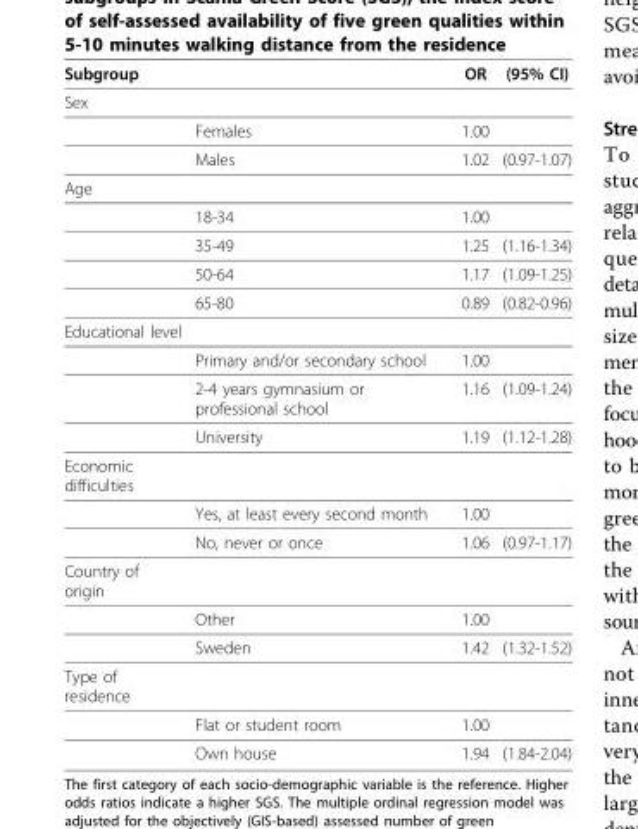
<table><thead><tr><td>Subgroup</td><td></td><td>OR</td><td>(95% CI)</td></tr></thead><tbody><tr><td colspan="4">Sex</td></tr><tr><td></td><td>Females</td><td>1.00</td><td></td></tr><tr><td></td><td>Males</td><td>1.02</td><td>(0.97-1.07)</td></tr><tr><td colspan="4">Age</td></tr><tr><td></td><td>18-34</td><td>1.00</td><td></td></tr><tr><td></td><td>35-49</td><td>1.25</td><td>(1.16-1.34)</td></tr><tr><td></td><td>50-64</td><td>1.17</td><td>(1.09-1.25)</td></tr><tr><td></td><td>65-80</td><td>0.89</td><td>(0.82-0.96)</td></tr><tr><td colspan="4">Educational level</td></tr><tr><td></td><td>Primary and/or secondary school</td><td>1.00</td><td></td></tr><tr><td></td><td>2-4 years gymnasium or professional school</td><td>1.16</td><td>(1.09-1.24)</td></tr><tr><td></td><td>University</td><td>1.19</td><td>(1.12-1.28)</td></tr><tr><td colspan="4">Economic difficulties</td></tr><tr><td></td><td>Yes, at least every second month</td><td>1.00</td><td></td></tr><tr><td></td><td>No, never or once</td><td>1.06</td><td>(0.97-1.17)</td></tr><tr><td colspan="4">Country of origin</td></tr><tr><td></td><td>Other</td><td>1.00</td><td></td></tr><tr><td></td><td>Sweden</td><td>1.42</td><td>(1.32-1.52)</td></tr><tr><td colspan="4">Type of residence</td></tr><tr><td></td><td>Flat or student room</td><td>1.00</td><td></td></tr><tr><td></td><td>Own house</td><td>1.94</td><td>(1.84-2.04)</td></tr></tbody></table>